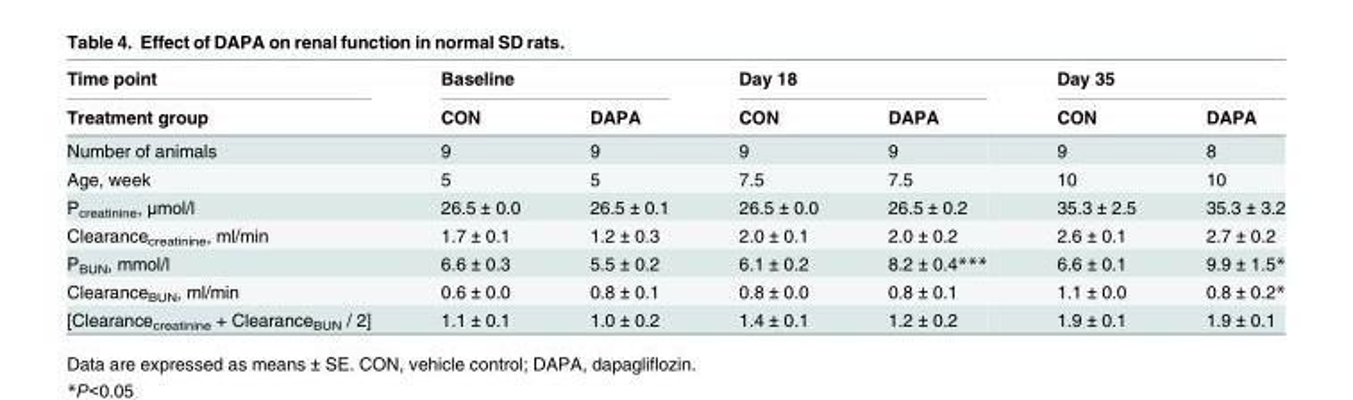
<table><thead><tr><td rowspan="2">Time point Treatment group</td><td colspan="2">Baseline</td><td colspan="2">Day 18</td><td colspan="2">Day 35</td></tr><tr><td>CON</td><td>DAPA</td><td>CON</td><td>DAPA</td><td>CON</td><td>DAPA</td></tr></thead><tbody><tr><td>Number of animals</td><td>9</td><td>9</td><td>9</td><td>9</td><td>9</td><td>8</td></tr><tr><td>Age, week</td><td>5</td><td>5</td><td>7.5</td><td>7.5</td><td>10</td><td>10</td></tr><tr><td>P<sub>creatinine</sub>, μmol/l</td><td>26.5 ± 0.0</td><td>26.5 ± 0.1</td><td>26.5 ± 0.0</td><td>26.5 ± 0.2</td><td>35.3 ± 2.5</td><td>35.3 ± 3.2</td></tr><tr><td>Clearance<sub>creatinine</sub>, ml/min</td><td>1.7 ± 0.1</td><td>1.2 ± 0.3</td><td>2.0 ± 0.1</td><td>2.0 ± 0.2</td><td>2.6 ± 0.1</td><td>2.7 ± 0.2</td></tr><tr><td>P<sub>BUN</sub>, mmol/l</td><td>6.6 ± 0.3</td><td>5.5 ± 0.2</td><td>6.1 ± 0.2</td><td>8.2 ± 0.4***</td><td>6.6 ± 0.1</td><td>9.9 ± 1.5*</td></tr><tr><td>Clearance<sub>BUN</sub>, ml/min</td><td>0.6 ± 0.0</td><td>0.8 ± 0.1</td><td>0.8 ± 0.0</td><td>0.8 ± 0.1</td><td>1.1 ± 0.0</td><td>0.8 ± 0.2*</td></tr><tr><td>[Clearance<sub>creatinine</sub> + Clearance<sub>BUN</sub> / 2]</td><td>1.1 ± 0.1</td><td>1.0 ± 0.2</td><td>1.4 ± 0.1</td><td>1.2 ± 0.2</td><td>1.9 ± 0.1</td><td>1.9 ± 0.1</td></tr></tbody></table>